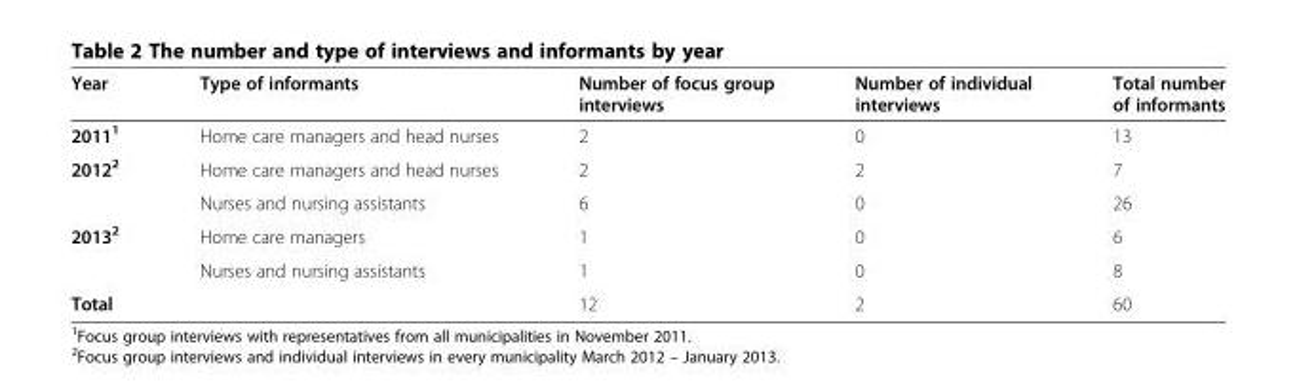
<table><thead><tr><td>Year</td><td>Type of informants</td><td>Number of focus group interviews</td><td>Number of individual interviews</td><td>Total number of informants</td></tr></thead><tbody><tr><td>2011<sup>1</sup></td><td>Home care managers and head nurses</td><td>2</td><td>0</td><td>13</td></tr><tr><td rowspan="2">2012<sup>2</sup></td><td>Home care managers and head nurses</td><td>2</td><td>2</td><td>7</td></tr><tr><td>Nurses and nursing assistants</td><td>6</td><td>0</td><td>26</td></tr><tr><td rowspan="2">2013<sup>2</sup></td><td>Home care managers</td><td>1</td><td>0</td><td>6</td></tr><tr><td>Nurses and nursing assistants</td><td>1</td><td>0</td><td>8</td></tr><tr><td>Total</td><td></td><td>12</td><td>2</td><td>60</td></tr></tbody></table>